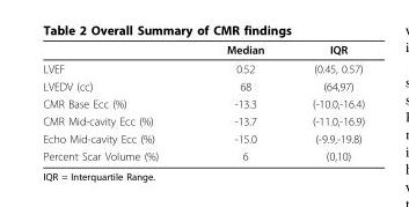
<table><thead><tr><td></td><td>Median</td><td>IQR</td></tr></thead><tbody><tr><td>LVEF</td><td>0.52</td><td>(0.45, 0.57)</td></tr><tr><td>LVEDV (cc)</td><td>68</td><td>(64,97)</td></tr><tr><td>CMR Base Ecc (%)</td><td>-13.3</td><td>(-10.0,-16.4)</td></tr><tr><td>CMR Mid-cavity Ecc (%)</td><td>-13.7</td><td>(-11.0,-16.9)</td></tr><tr><td>Echo Mid-cavity Ecc (%)</td><td>-15.0</td><td>(-9.9,-19.8)</td></tr><tr><td>Percent Scar Volume (%)</td><td>6</td><td>(0,10)</td></tr></tbody></table>